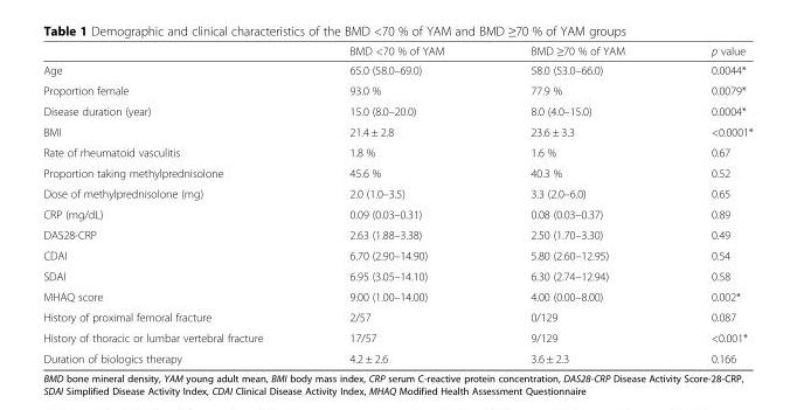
<table><thead><tr><td></td><td>BMD &lt;70 % of YAM</td><td>BMD ≥70 % of YAM</td><td>p value</td></tr></thead><tbody><tr><td>Age</td><td>65.0 (58.0–69.0)</td><td>58.0 (53.0–66.0)</td><td>0.0044*</td></tr><tr><td>Proportion female</td><td>93.0 %</td><td>77.9 %</td><td>0.0079*</td></tr><tr><td>Disease duration (year)</td><td>15.0 (8.0–20.0)</td><td>8.0 (4.0–15.0)</td><td>0.0004*</td></tr><tr><td>BMI</td><td>21.4 ± 2.8</td><td>23.6 ± 3.3</td><td>&lt;0.0001*</td></tr><tr><td>Rate of rheumatoid vasculitis</td><td>1.8 %</td><td>1.6 %</td><td>0.67</td></tr><tr><td>Proportion taking methylprednisolone</td><td>45.6 %</td><td>40.3 %</td><td>0.52</td></tr><tr><td>Dose of methylprednisolone (mg)</td><td>2.0 (1.0–3.5)</td><td>3.3 (2.0–6.0)</td><td>0.65</td></tr><tr><td>CRP (mg/dL)</td><td>0.09 (0.03–0.31)</td><td>0.08 (0.03–0.37)</td><td>0.89</td></tr><tr><td>DAS28-CRP</td><td>2.63 (1.88–3.38)</td><td>2.50 (1.70–3.30)</td><td>0.49</td></tr><tr><td>CDAI</td><td>6.70 (2.90–14.90)</td><td>5.80 (2.60–12.95)</td><td>0.54</td></tr><tr><td>SDAI</td><td>6.95 (3.05–14.10)</td><td>6.30 (2.74–12.94)</td><td>0.58</td></tr><tr><td>MHAQ score</td><td>9.00 (1.00–14.00)</td><td>4.00 (0.00–8.00)</td><td>0.002*</td></tr><tr><td>History of proximal femoral fracture</td><td>2/57</td><td>0/129</td><td>0.087</td></tr><tr><td>History of thoracic or lumbar vertebral fracture</td><td>17/57</td><td>9/129</td><td>&lt;0.001*</td></tr><tr><td>Duration of biologics therapy</td><td>4.2 ± 2.6</td><td>3.6 ± 2.3</td><td>0.166</td></tr></tbody></table>